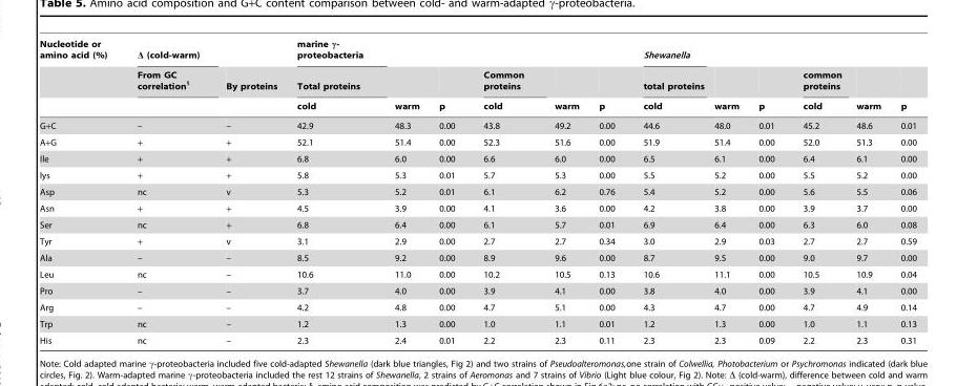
<table><thead><tr><td rowspan="3">Nucleotide or amino acid (%)</td><td rowspan="3">Δ (cold-warm) From GC correlation<sup>§</sup></td><td rowspan="3">By proteins</td><td rowspan="3">marine γ- proteobacteria Total proteins cold</td><td rowspan="3">warm</td><td rowspan="3">p</td><td rowspan="3">Common proteins cold</td><td rowspan="3">warm</td><td rowspan="3">p</td><td rowspan="3">Shewanella total proteins cold</td><td rowspan="3">warm</td><td rowspan="3">p</td><td rowspan="3">common proteins cold</td><td rowspan="3">warm</td><td rowspan="3">p</td></tr><tr></tr><tr></tr></thead><tbody><tr><td>G+C</td><td>–</td><td>–</td><td>42.9</td><td>48.3</td><td>0.00</td><td>43.8</td><td>49.2</td><td>0.00</td><td>44.6</td><td>48.0</td><td>0.01</td><td>45.2</td><td>48.6</td><td>0.01</td></tr><tr><td>A+G</td><td>+</td><td>+</td><td>52.1</td><td>51.4</td><td>0.00</td><td>52.3</td><td>51.6</td><td>0.00</td><td>51.9</td><td>51.4</td><td>0.00</td><td>52.0</td><td>51.3</td><td>0.00</td></tr><tr><td>Ile</td><td>+</td><td>+</td><td>6.8</td><td>6.0</td><td>0.00</td><td>6.6</td><td>6.0</td><td>0.00</td><td>6.5</td><td>6.1</td><td>0.00</td><td>6.4</td><td>6.1</td><td>0.00</td></tr><tr><td>lys</td><td>+</td><td>+</td><td>5.8</td><td>5.3</td><td>0.01</td><td>5.7</td><td>5.3</td><td>0.00</td><td>5.5</td><td>5.2</td><td>0.00</td><td>5.5</td><td>5.2</td><td>0.00</td></tr><tr><td>Asp</td><td>nc</td><td>v</td><td>5.3</td><td>5.2</td><td>0.01</td><td>6.1</td><td>6.2</td><td>0.76</td><td>5.4</td><td>5.2</td><td>0.00</td><td>5.6</td><td>5.5</td><td>0.06</td></tr><tr><td>Asn</td><td>+</td><td>+</td><td>4.5</td><td>3.9</td><td>0.00</td><td>4.1</td><td>3.6</td><td>0.00</td><td>4.2</td><td>3.8</td><td>0.00</td><td>3.9</td><td>3.7</td><td>0.00</td></tr><tr><td>Ser</td><td>nc</td><td>+</td><td>6.8</td><td>6.4</td><td>0.00</td><td>6.1</td><td>5.7</td><td>0.01</td><td>6.9</td><td>6.4</td><td>0.00</td><td>6.3</td><td>6.0</td><td>0.08</td></tr><tr><td>Tyr</td><td>+</td><td>v</td><td>3.1</td><td>2.9</td><td>0.00</td><td>2.7</td><td>2.7</td><td>0.34</td><td>3.0</td><td>2.9</td><td>0.03</td><td>2.7</td><td>2.7</td><td>0.59</td></tr><tr><td>Ala</td><td>–</td><td>–</td><td>8.5</td><td>9.2</td><td>0.00</td><td>8.9</td><td>9.6</td><td>0.00</td><td>8.7</td><td>9.5</td><td>0.00</td><td>9.0</td><td>9.7</td><td>0.00</td></tr><tr><td>Leu</td><td>nc</td><td>–</td><td>10.6</td><td>11.0</td><td>0.00</td><td>10.2</td><td>10.5</td><td>0.13</td><td>10.6</td><td>11.1</td><td>0.00</td><td>10.5</td><td>10.9</td><td>0.04</td></tr><tr><td>Pro</td><td>–</td><td>–</td><td>3.7</td><td>4.0</td><td>0.00</td><td>3.9</td><td>4.1</td><td>0.00</td><td>3.8</td><td>4.0</td><td>0.00</td><td>3.9</td><td>4.1</td><td>0.00</td></tr><tr><td>Arg</td><td>–</td><td>–</td><td>4.2</td><td>4.8</td><td>0.00</td><td>4.7</td><td>5.1</td><td>0.00</td><td>4.3</td><td>4.7</td><td>0.00</td><td>4.7</td><td>4.9</td><td>0.14</td></tr><tr><td>Trp</td><td>nc</td><td>–</td><td>1.2</td><td>1.3</td><td>0.00</td><td>1.0</td><td>1.1</td><td>0.01</td><td>1.2</td><td>1.3</td><td>0.00</td><td>1.0</td><td>1.1</td><td>0.13</td></tr><tr><td>His</td><td>nc</td><td>–</td><td>2.3</td><td>2.4</td><td>0.01</td><td>2.2</td><td>2.3</td><td>0.11</td><td>2.3</td><td>2.3</td><td>0.09</td><td>2.2</td><td>2.3</td><td>0.31</td></tr></tbody></table>